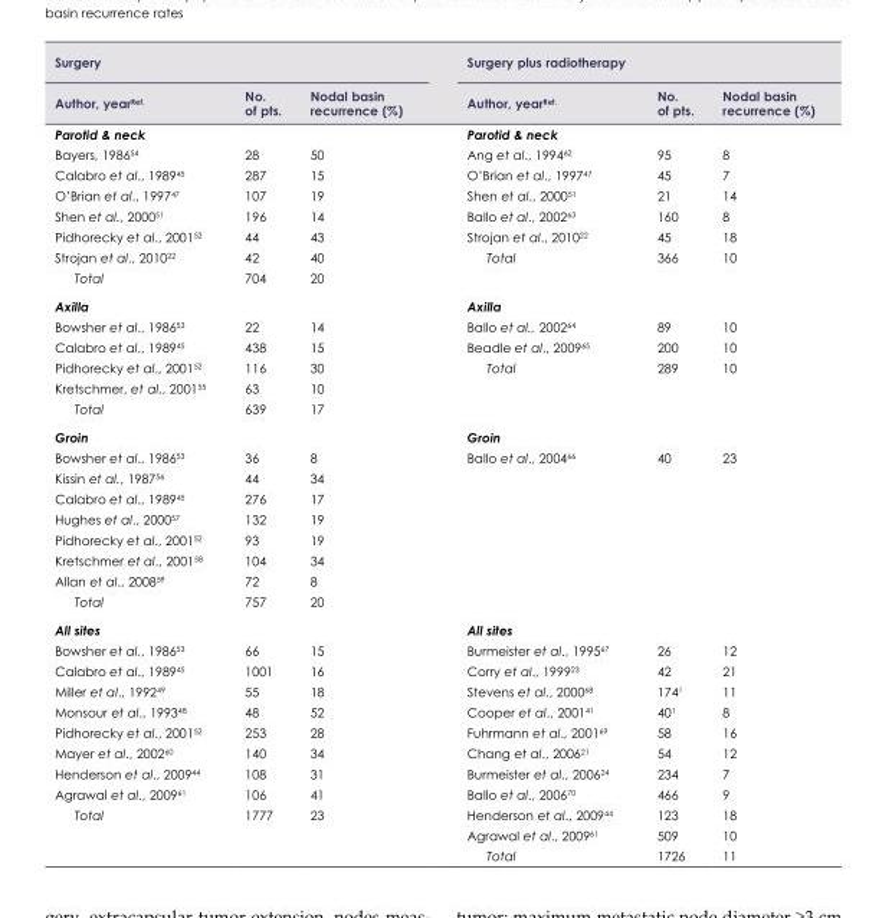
<table><thead><tr><td colspan="3">Surgery</td><td colspan="3">Surgery plus radiotherapy</td></tr><tr><td>Author, year<sup>Ref.</sup></td><td>No. of pts.</td><td>Nodal basin recurrence (%)</td><td>Author, year<sup>Ref.</sup></td><td>No. of pts.</td><td>Nodal basin recurrence (%)</td></tr></thead><tbody><tr><td>Parotid &amp; neck</td><td></td><td></td><td>Parotid &amp; neck</td><td></td><td></td></tr><tr><td>Bayers, 1986<sup>54</sup></td><td>28</td><td>50</td><td>Ang et al., 1994<sup>62</sup></td><td>95</td><td>8</td></tr><tr><td>Calabro et al., 1989<sup>45</sup></td><td>287</td><td>15</td><td>O’Brian et al., 1997<sup>47</sup></td><td>45</td><td>7</td></tr><tr><td>O’Brian et al., 1997<sup>47</sup></td><td>107</td><td>19</td><td>Shen et al., 2000<sup>51</sup></td><td>21</td><td>14</td></tr><tr><td>Shen et al., 2000<sup>51</sup></td><td>196</td><td>14</td><td>Ballo et al., 2002<sup>63</sup></td><td>160</td><td>8</td></tr><tr><td>Pidhorecky et al., 2001<sup>52</sup></td><td>44</td><td>43</td><td>Strojan et al., 2010<sup>22</sup></td><td>45</td><td>18</td></tr><tr><td>Strojan et al., 2010<sup>22</sup></td><td>42</td><td>40</td><td>Total</td><td>366</td><td>10</td></tr><tr><td>Total</td><td>704</td><td>20</td><td></td><td></td><td></td></tr><tr><td>Axilla</td><td></td><td></td><td>Axilla</td><td></td><td></td></tr><tr><td>Bowsher et al., 1986<sup>53</sup></td><td>22</td><td>14</td><td>Ballo et al., 2002<sup>64</sup></td><td>89</td><td>10</td></tr><tr><td>Calabro et al., 1989<sup>45</sup></td><td>438</td><td>15</td><td>Beadle et al., 2009<sup>65</sup></td><td>200</td><td>10</td></tr><tr><td>Pidhorecky et al., 2001<sup>52</sup></td><td>116</td><td>30</td><td>Total</td><td>289</td><td>10</td></tr><tr><td>Kretschmer, et al., 2001<sup>55</sup></td><td>63</td><td>10</td><td></td><td></td><td></td></tr><tr><td>Total</td><td>639</td><td>17</td><td></td><td></td><td></td></tr><tr><td>Groin</td><td></td><td></td><td>Groin</td><td></td><td></td></tr><tr><td>Bowsher et al., 1986<sup>53</sup></td><td>36</td><td>8</td><td>Ballo et al., 2004<sup>66</sup></td><td>40</td><td>23</td></tr><tr><td>Kissin et al., 1987<sup>56</sup></td><td>44</td><td>34</td><td></td><td></td><td></td></tr><tr><td>Calabro et al., 1989<sup>45</sup></td><td>276</td><td>17</td><td></td><td></td><td></td></tr><tr><td>Hughes et al., 2000<sup>57</sup></td><td>132</td><td>19</td><td></td><td></td><td></td></tr><tr><td>Pidhorecky et al., 2001<sup>52</sup></td><td>93</td><td>19</td><td></td><td></td><td></td></tr><tr><td>Kretschmer et al., 2001<sup>58</sup></td><td>104</td><td>34</td><td></td><td></td><td></td></tr><tr><td>Allan et al., 2008<sup>59</sup></td><td>72</td><td>8</td><td></td><td></td><td></td></tr><tr><td>Total</td><td>757</td><td>20</td><td></td><td></td><td></td></tr><tr><td>All sites</td><td></td><td></td><td>All sites</td><td></td><td></td></tr><tr><td>Bowsher et al., 1986<sup>53</sup></td><td>66</td><td>15</td><td>Burmeister et al., 1995<sup>67</sup></td><td>26</td><td>12</td></tr><tr><td>Calabro et al., 1989<sup>45</sup></td><td>1001</td><td>16</td><td>Corry et al., 1999<sup>23</sup></td><td>42</td><td>21</td></tr><tr><td>Miller et al., 1992<sup>49</sup></td><td>55</td><td>18</td><td>Stevens et al., 2000<sup>68</sup></td><td>174<sup>1</sup></td><td>11</td></tr><tr><td>Monsour et al., 1993<sup>48</sup></td><td>48</td><td>52</td><td>Cooper et al., 2001<sup>41</sup></td><td>40<sup>1</sup></td><td>8</td></tr><tr><td>Pidhorecky et al., 2001<sup>52</sup></td><td>253</td><td>28</td><td>Fuhrmann et al., 2001<sup>69</sup></td><td>58</td><td>16</td></tr><tr><td>Mayer et al., 2002<sup>60</sup></td><td>140</td><td>34</td><td>Chang et al., 2006<sup>21</sup></td><td>54</td><td>12</td></tr><tr><td>Henderson et al., 2009<sup>44</sup></td><td>108</td><td>31</td><td>Burmeister et al., 2006<sup>24</sup></td><td>234</td><td>7</td></tr><tr><td>Agrawal et al., 2009<sup>61</sup></td><td>106</td><td>41</td><td>Ballo et al., 2006<sup>70</sup></td><td>466</td><td>9</td></tr><tr><td rowspan="3">Total</td><td>1777</td><td>23</td><td>Henderson et al., 2009<sup>44</sup></td><td>123</td><td>18</td></tr><tr><td></td><td></td><td>Agrawal et al., 2009<sup>61</sup></td><td>509</td><td>10</td></tr><tr><td></td><td></td><td>Total</td><td>1726</td><td>11</td></tr></tbody></table>